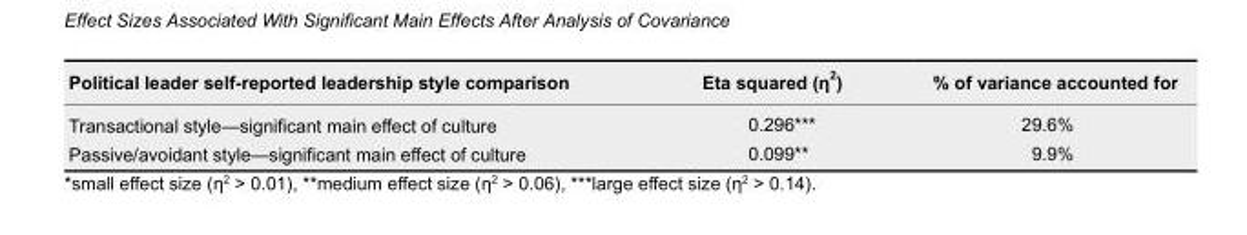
<table><thead><tr><td>Political leader self-reported leadership style comparison</td><td>Eta squared (η <sup>2</sup>)</td><td>% of variance accounted for</td></tr></thead><tbody><tr><td>Transactional style—significant main effect of culture</td><td>0.296***</td><td>29.6%</td></tr><tr><td>Passive/avoidant style—significant main effect of culture</td><td>0.099**</td><td>9.9%</td></tr></tbody></table>